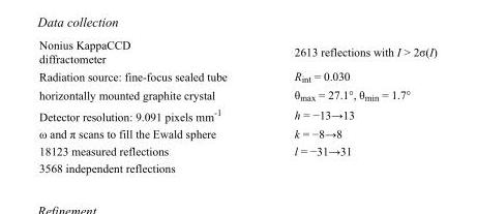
<table><tbody><tr><td>Nonius KappaCCD diffractometer</td><td>2613 reflections with I &gt; 2σ(I)</td></tr><tr><td>Radiation source: fine-focus sealed tube</td><td>R<sub>int</sub> = 0.030</td></tr><tr><td>horizontally mounted graphite crystal</td><td>θ<sub>max</sub> = 27.1°, θ<sub>min</sub> = 1.7°</td></tr><tr><td>Detector resolution: 9.091 pixels mm<sup>-1</sup></td><td>h = −13→13</td></tr><tr><td>ω and π scans to fill the Ewald sphere</td><td>k = −8→8</td></tr><tr><td>18123 measured reflections</td><td>l = −31→31</td></tr><tr><td>3568 independent reflections</td><td></td></tr></tbody></table>